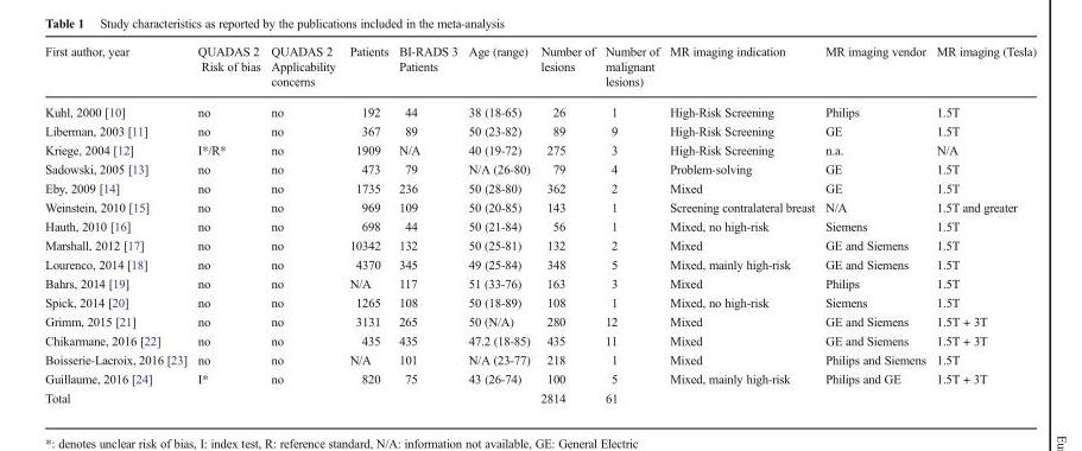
<table><thead><tr><td rowspan="2">First author, year</td><td rowspan="2">QUADAS 2 Risk of bias</td><td rowspan="2">QUADAS 2 Applicability concerns</td><td rowspan="2">Patients</td><td rowspan="2">BI-RADS 3 Patients</td><td rowspan="2">Age (range)</td><td rowspan="2">Number of lesions</td><td rowspan="2">Number of malignant lesions)</td><td rowspan="2">MR imaging indication</td><td rowspan="2">MR imaging vendor</td><td rowspan="2">MR imaging (Tesla)</td></tr><tr></tr></thead><tbody><tr><td>Kuhl, 2000 [10]</td><td>no</td><td>no</td><td>192</td><td>44</td><td>38 (18-65)</td><td>26</td><td>1</td><td>High-Risk Screening</td><td>Philips</td><td>1.5T</td></tr><tr><td>Liberman, 2003 [11]</td><td>no</td><td>no</td><td>367</td><td>89</td><td>50 (23-82)</td><td>89</td><td>9</td><td>High-Risk Screening</td><td>GE</td><td>1.5T</td></tr><tr><td>Kriege, 2004 [12]</td><td>I*/R*</td><td>no</td><td>1909</td><td>N/A</td><td>40 (19-72)</td><td>275</td><td>3</td><td>High-Risk Screening</td><td>n.a.</td><td>N/A</td></tr><tr><td>Sadowski, 2005 [13]</td><td>no</td><td>no</td><td>473</td><td>79</td><td>N/A (26-80)</td><td>79</td><td>4</td><td>Problem-solving</td><td>GE</td><td>1.5T</td></tr><tr><td>Eby, 2009 [14]</td><td>no</td><td>no</td><td>1735</td><td>236</td><td>50 (28-80)</td><td>362</td><td>2</td><td>Mixed</td><td>GE</td><td>1.5T</td></tr><tr><td>Weinstein, 2010 [15]</td><td>no</td><td>no</td><td>969</td><td>109</td><td>50 (20-85)</td><td>143</td><td>1</td><td>Screening contralateral breast</td><td>N/A</td><td>1.5T and greater</td></tr><tr><td>Hauth, 2010 [16]</td><td>no</td><td>no</td><td>698</td><td>44</td><td>50 (21-84)</td><td>56</td><td>1</td><td>Mixed, no high-risk</td><td>Siemens</td><td>1.5T</td></tr><tr><td>Marshall, 2012 [17]</td><td>no</td><td>no</td><td>10342</td><td>132</td><td>50 (25-81)</td><td>132</td><td>2</td><td>Mixed</td><td>GE and Siemens</td><td>1.5T</td></tr><tr><td>Lourenco, 2014 [18]</td><td>no</td><td>no</td><td>4370</td><td>345</td><td>49 (25-84)</td><td>348</td><td>5</td><td>Mixed, mainly high-risk</td><td>GE and Siemens</td><td>1.5T</td></tr><tr><td>Bahrs, 2014 [19]</td><td>no</td><td>no</td><td>N/A</td><td>117</td><td>51 (33-76)</td><td>163</td><td>3</td><td>Mixed</td><td>Philips</td><td>1.5T</td></tr><tr><td>Spick, 2014 [20]</td><td>no</td><td>no</td><td>1265</td><td>108</td><td>50 (18-89)</td><td>108</td><td>1</td><td>Mixed, no high-risk</td><td>Siemens</td><td>1.5T</td></tr><tr><td>Grimm, 2015 [21]</td><td>no</td><td>no</td><td>3131</td><td>265</td><td>50 (N/A)</td><td>280</td><td>12</td><td>Mixed</td><td>GE and Siemens</td><td>1.5T + 3T</td></tr><tr><td>Chikarmane, 2016 [22]</td><td>no</td><td>no</td><td>435</td><td>435</td><td>47.2 (18-85)</td><td>435</td><td>11</td><td>Mixed</td><td>GE and Siemens</td><td>1.5T + 3T</td></tr><tr><td>Boisserie-Lacroix, 2016 [23]</td><td>no</td><td>no</td><td>N/A</td><td>101</td><td>N/A (23-77)</td><td>218</td><td>1</td><td>Mixed</td><td>Philips and Siemens</td><td>1.5T</td></tr><tr><td>Guillaume, 2016 [24]</td><td>I*</td><td>no</td><td>820</td><td>75</td><td>43 (26-74)</td><td>100</td><td>5</td><td>Mixed, mainly high-risk</td><td>Philips and GE</td><td>1.5T + 3T</td></tr><tr><td>Total</td><td></td><td></td><td></td><td></td><td></td><td>2814</td><td>61</td><td></td><td></td><td></td></tr></tbody></table>